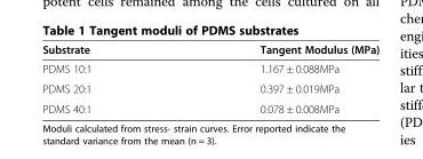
<table><thead><tr><td>Substrate</td><td>Tangent Modulus (MPa)</td></tr></thead><tbody><tr><td>PDMS 10:1</td><td>1.167 ± 0.088MPa</td></tr><tr><td>PDMS 20:1</td><td>0.397 ± 0.019MPa</td></tr><tr><td>PDMS 40:1</td><td>0.078 ± 0.008MPa</td></tr></tbody></table>